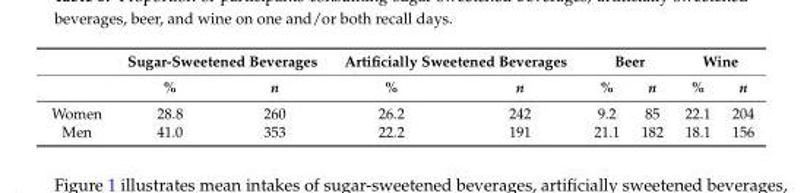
<table><thead><tr><td rowspan="2"></td><td colspan="2">Sugar-Sweetened Beverages</td><td colspan="2">Artificially Sweetened Beverages</td><td colspan="2">Beer</td><td colspan="2">Wine</td></tr><tr><td>%</td><td>n</td><td>%</td><td>n</td><td>%</td><td>n</td><td>%</td><td>n</td></tr></thead><tbody><tr><td>Women</td><td>28.8</td><td>260</td><td>26.2</td><td>242</td><td>9.2</td><td>85</td><td>22.1</td><td>204</td></tr><tr><td>Men</td><td>41.0</td><td>353</td><td>22.2</td><td>191</td><td>21.1</td><td>182</td><td>18.1</td><td>156</td></tr></tbody></table>